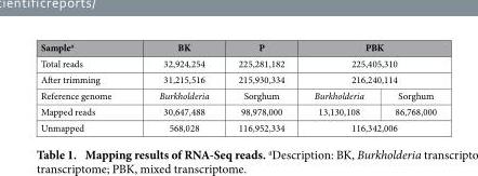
<table><thead><tr><td rowspan="4">Sample<sup>a</sup> Total reads After trimming Reference genome</td><td rowspan="4">BK 32,924,254 31,215,516 Burkholderia</td><td rowspan="4">P 225,281,182 215,930,334 Sorghum</td><td rowspan="3" colspan="2">PBK 225,405,310 216,240,114</td></tr><tr></tr><tr></tr><tr><td>Burkholderia</td><td>Sorghum</td></tr></thead><tbody><tr><td>Mapped reads</td><td>30,647,488</td><td>98,978,000</td><td>13,130,108</td><td>86,768,000</td></tr><tr><td>Unmapped</td><td>568,028</td><td>116,952,334</td><td colspan="2">116,342,006</td></tr></tbody></table>